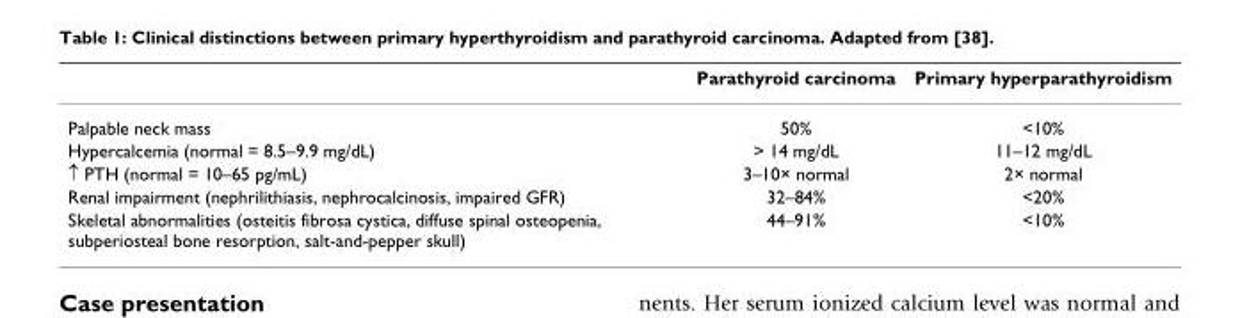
<table><thead><tr><td></td><td>Parathyroid carcinoma</td><td>Primary hyperparathyroidism</td></tr></thead><tbody><tr><td>Palpable neck mass</td><td>50%</td><td>&lt;10%</td></tr><tr><td>Hypercalcemia (normal = 8.5–9.9 mg/dL)</td><td>&gt; 14 mg/dL</td><td>11–12 mg/dL</td></tr><tr><td>↑ PTH (normal = 10–65 pg/mL)</td><td>3–10× normal</td><td>2× normal</td></tr><tr><td>Renal impairment (nephrilithiasis, nephrocalcinosis, impaired GFR)</td><td>32–84%</td><td>&lt;20%</td></tr><tr><td>Skeletal abnormalities (osteitis fibrosa cystica, diffuse spinal osteopenia, subperiosteal bone resorption, salt-and-pepper skull)</td><td>44–91%</td><td>&lt;10%</td></tr></tbody></table>